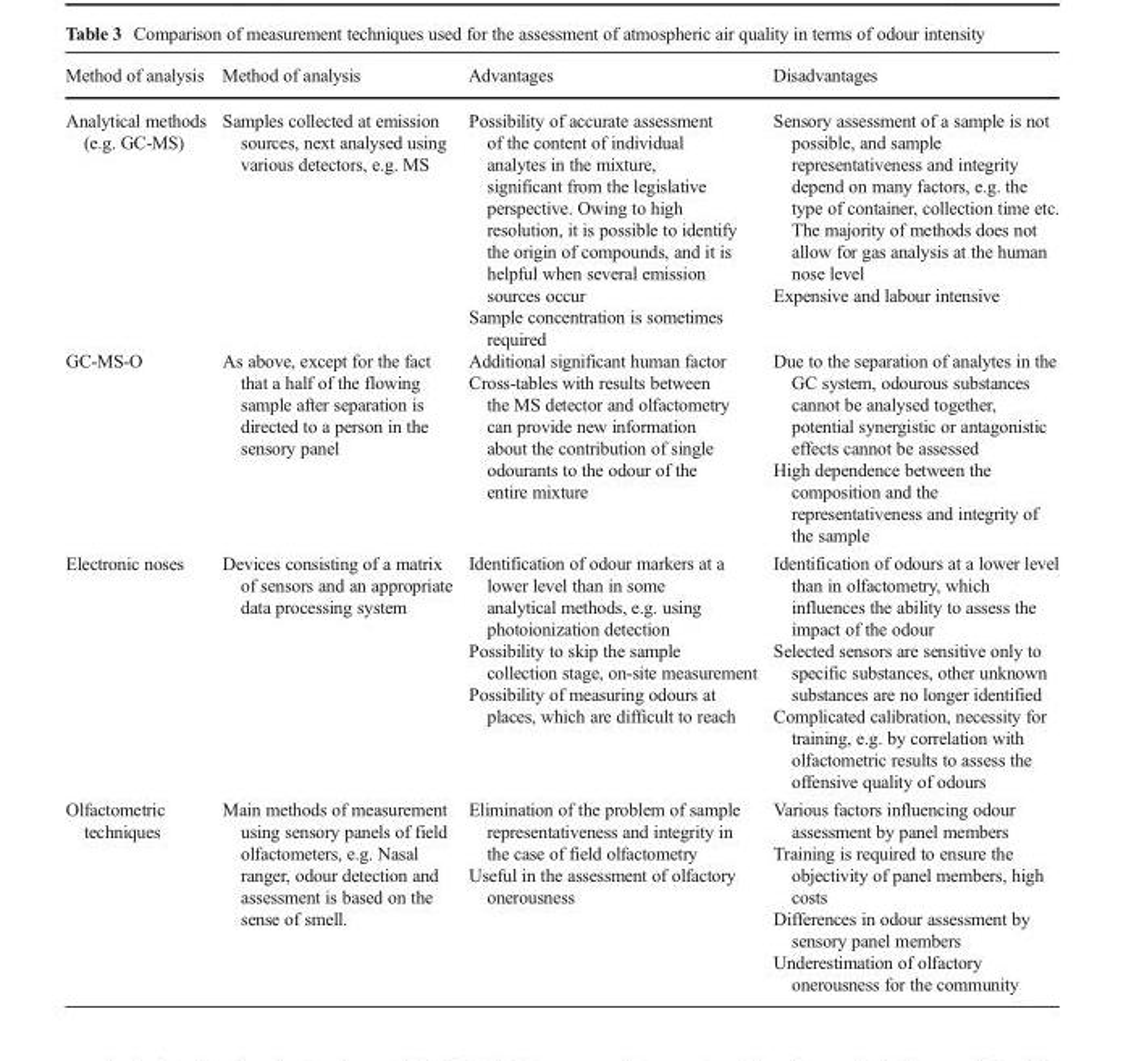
<table><thead><tr><td>Method of analysis</td><td>Method of analysis</td><td>Advantages</td><td>Disadvantages</td></tr></thead><tbody><tr><td>Analytical methods (e.g. GC-MS)</td><td>Samples collected at emission sources, next analysed using various detectors, e.g. MS</td><td>Possibility of accurate assessment of the content of individual analytes in the mixture, significant from the legislative perspective. Owing to high resolution, it is possible to identify the origin of compounds, and it is helpful when several emission sources occur Sample concentration is sometimes required</td><td>Sensory assessment of a sample is not possible, and sample representativeness and integrity depend on many factors, e.g. the type of container, collection time etc. The majority of methods does not allow for gas analysis at the human nose level Expensive and labour intensive</td></tr><tr><td>GC-MS-O</td><td>As above, except for the fact that a half of the flowing sample after separation is directed to a person in the sensory panel</td><td>Additional significant human factor Cross-tables with results between the MS detector and olfactometry can provide new information about the contribution of single odourants to the odour of the entire mixture</td><td>Due to the separation of analytes in the GC system, odourous substances cannot be analysed together, potential synergistic or antagonistic effects cannot be assessed High dependence between the composition and the representativeness and integrity of the sample</td></tr><tr><td>Electronic noses</td><td>Devices consisting of a matrix of sensors and an appropriate data processing system</td><td>Identification of odour markers at a lower level than in some analytical methods, e.g. using photoionization detection Possibility to skip the sample collection stage, on-site measurement Possibility of measuring odours at places, which are difficult to reach</td><td>Identification of odours at a lower level than in olfactometry, which influences the ability to assess the impact of the odour Selected sensors are sensitive only to specific substances, other unknown substances are no longer identified Complicated calibration, necessity for training, e.g. by correlation with olfactometric results to assess the offensive quality of odours</td></tr><tr><td>Olfactometric techniques</td><td>Main methods of measurement using sensory panels of field olfactometers, e.g. Nasal ranger, odour detection and assessment is based on the sense of smell.</td><td>Elimination of the problem of sample representativeness and integrity in the case of field olfactometry Useful in the assessment of olfactory onerousness</td><td>Various factors influencing odour assessment by panel members Training is required to ensure the objectivity of panel members, high costs Differences in odour assessment by sensory panel members Underestimation of olfactory onerousness for the community</td></tr></tbody></table>